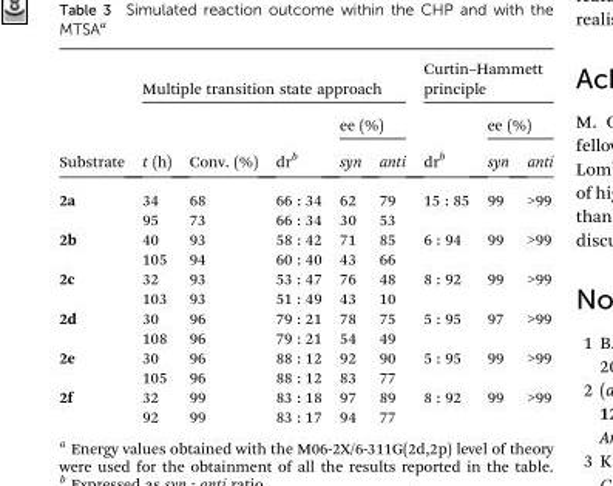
<table><thead><tr><td rowspan="3">Substrate</td><td colspan="5">Multiple transition state approach</td><td colspan="3">Curtin–Hammett principle</td></tr><tr><td rowspan="2">t (h)</td><td rowspan="2">Conv. (%)</td><td rowspan="2">dr<sup>b</sup></td><td colspan="2">ee (%)</td><td rowspan="2">dr<sup>b</sup></td><td colspan="2">ee (%)</td></tr><tr><td>syn</td><td>anti</td><td>syn</td><td>anti</td></tr></thead><tbody><tr><td rowspan="2">2a</td><td>34</td><td>68</td><td>66 : 34</td><td>62</td><td>79</td><td rowspan="2">15 : 85</td><td rowspan="2">99</td><td rowspan="2">&gt;99</td></tr><tr><td>95</td><td>73</td><td>66 : 34</td><td>30</td><td>53</td></tr><tr><td rowspan="2">2b</td><td>40</td><td>93</td><td>58 : 42</td><td>71</td><td>85</td><td rowspan="2">6 : 94</td><td rowspan="2">99</td><td rowspan="2">&gt;99</td></tr><tr><td>105</td><td>94</td><td>60 : 40</td><td>43</td><td>66</td></tr><tr><td rowspan="2">2c</td><td>32</td><td>93</td><td>53 : 47</td><td>76</td><td>48</td><td rowspan="2">8 : 92</td><td rowspan="2">99</td><td rowspan="2">&gt;99</td></tr><tr><td>103</td><td>93</td><td>51 : 49</td><td>43</td><td>10</td></tr><tr><td rowspan="2">2d</td><td>30</td><td>96</td><td>79 : 21</td><td>78</td><td>75</td><td rowspan="2">5 : 95</td><td rowspan="2">97</td><td rowspan="2">&gt;99</td></tr><tr><td>108</td><td>96</td><td>79 : 21</td><td>54</td><td>49</td></tr><tr><td rowspan="2">2e</td><td>30</td><td>96</td><td>88 : 12</td><td>92</td><td>90</td><td rowspan="2">5 : 95</td><td rowspan="2">99</td><td rowspan="2">&gt;99</td></tr><tr><td>105</td><td>96</td><td>88 : 12</td><td>83</td><td>77</td></tr><tr><td rowspan="2">2f</td><td>32</td><td>99</td><td>83 : 18</td><td>97</td><td>89</td><td rowspan="2">8 : 92</td><td rowspan="2">99</td><td rowspan="2">&gt;99</td></tr><tr><td>92</td><td>99</td><td>83 : 17</td><td>94</td><td>77</td></tr></tbody></table>